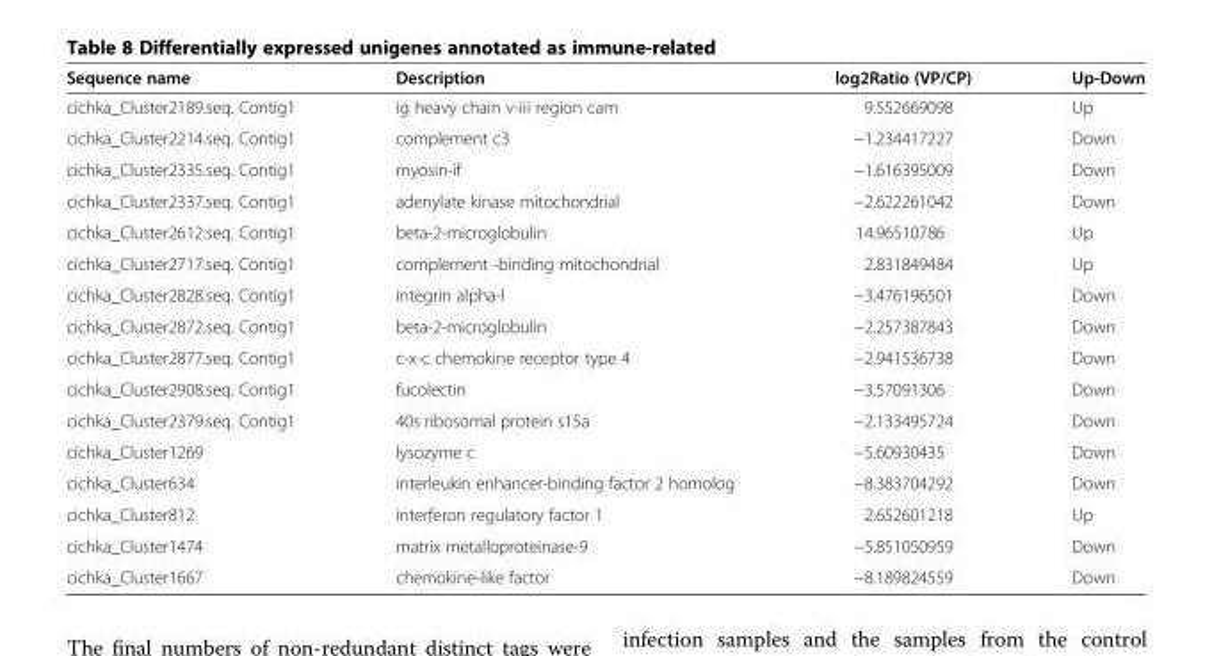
<table><thead><tr><td>Sequence name</td><td>Description</td><td>log2Ratio (VP/CP)</td><td>Up-Down</td></tr></thead><tbody><tr><td>cichka_Cluster2189.seq. Contig1</td><td>ig heavy chain v-iii region cam</td><td>9.552669098</td><td>Up</td></tr><tr><td>cichka_Cluster2214.seq. Contig1</td><td>complement c3</td><td>−1.234417227</td><td>Down</td></tr><tr><td>cichka_Cluster2335.seq. Contig1</td><td>myosin-if</td><td>−1.616395009</td><td>Down</td></tr><tr><td>cichka_Cluster2337.seq. Contig1</td><td>adenylate kinase mitochondrial</td><td>−2.622261042</td><td>Down</td></tr><tr><td>cichka_Cluster2612.seq. Contig1</td><td>beta-2-microglobulin</td><td>14.96510786</td><td>Up</td></tr><tr><td>cichka_Cluster2717.seq. Contig1</td><td>complement -binding mitochondrial</td><td>2.831849484</td><td>Up</td></tr><tr><td>cichka_Cluster2828.seq. Contig1</td><td>integrin alpha-l</td><td>−3.476196501</td><td>Down</td></tr><tr><td>cichka_Cluster2872.seq. Contig1</td><td>beta-2-microglobulin</td><td>−2.257387843</td><td>Down</td></tr><tr><td>cichka_Cluster2877.seq. Contig1</td><td>c-x-c chemokine receptor type 4</td><td>−2.941536738</td><td>Down</td></tr><tr><td>cichka_Cluster2908.seq. Contig1</td><td>fucolectin</td><td>−3.57091306</td><td>Down</td></tr><tr><td>cichka_Cluster2379.seq. Contig1</td><td>40s ribosomal protein s15a</td><td>−2.133495724</td><td>Down</td></tr><tr><td>cichka_Cluster1269</td><td>lysozyme c</td><td>−5.60930435</td><td>Down</td></tr><tr><td>cichka_Cluster634</td><td>interleukin enhancer-binding factor 2 homolog</td><td>−8.383704292</td><td>Down</td></tr><tr><td>cichka_Cluster812</td><td>interferon regulatory factor 1</td><td>2.652601218</td><td>Up</td></tr><tr><td>cichka_Cluster1474</td><td>matrix metalloproteinase-9</td><td>−5.851050959</td><td>Down</td></tr><tr><td>cichka_Cluster1667</td><td>chemokine-like factor</td><td>−8.189824559</td><td>Down</td></tr></tbody></table>